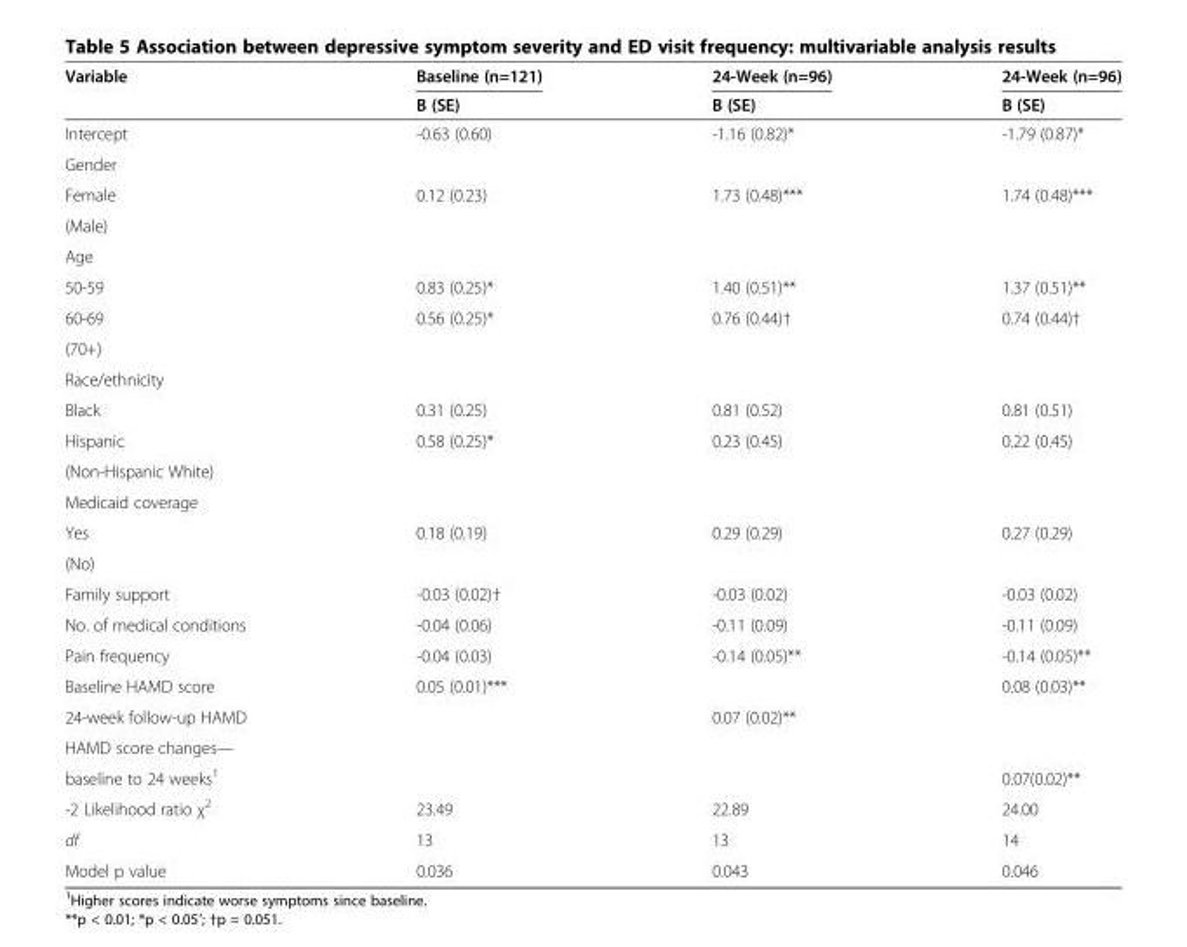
<table><thead><tr><td rowspan="2">Variable</td><td rowspan="2">Baseline (n=121) B (SE)</td><td rowspan="2">24-Week (n=96) B (SE)</td><td rowspan="2">24-Week (n=96) B (SE)</td></tr><tr></tr></thead><tbody><tr><td>Intercept</td><td>-0.63 (0.60)</td><td>-1.16 (0.82)*</td><td>-1.79 (0.87)*</td></tr><tr><td colspan="4">Gender</td></tr><tr><td>Female</td><td>0.12 (0.23)</td><td>1.73 (0.48)***</td><td>1.74 (0.48)***</td></tr><tr><td colspan="4">(Male)</td></tr><tr><td colspan="4">Age</td></tr><tr><td>50-59</td><td>0.83 (0.25)*</td><td>1.40 (0.51)**</td><td>1.37 (0.51)**</td></tr><tr><td>60-69</td><td>0.56 (0.25)*</td><td>0.76 (0.44)†</td><td>0.74 (0.44)†</td></tr><tr><td colspan="4">(70+)</td></tr><tr><td colspan="4">Race/ethnicity</td></tr><tr><td>Black</td><td>0.31 (0.25)</td><td>0.81 (0.52)</td><td>0.81 (0.51)</td></tr><tr><td>Hispanic</td><td>0.58 (0.25)*</td><td>0.23 (0.45)</td><td>0.22 (0.45)</td></tr><tr><td colspan="4">(Non-Hispanic White)</td></tr><tr><td colspan="4">Medicaid coverage</td></tr><tr><td>Yes</td><td>0.18 (0.19)</td><td>0.29 (0.29)</td><td>0.27 (0.29)</td></tr><tr><td colspan="4">(No)</td></tr><tr><td>Family support</td><td>-0.03 (0.02)†</td><td>-0.03 (0.02)</td><td>-0.03 (0.02)</td></tr><tr><td>No. of medical conditions</td><td>-0.04 (0.06)</td><td>-0.11 (0.09)</td><td>-0.11 (0.09)</td></tr><tr><td>Pain frequency</td><td>-0.04 (0.03)</td><td>-0.14 (0.05)**</td><td>-0.14 (0.05)**</td></tr><tr><td>Baseline HAMD score</td><td>0.05 (0.01)***</td><td></td><td>0.08 (0.03)**</td></tr><tr><td>24-week follow-up HAMD</td><td></td><td>0.07 (0.02)**</td><td></td></tr><tr><td colspan="4">HAMD score changes—</td></tr><tr><td>baseline to 24 weeks<sup>1</sup></td><td></td><td></td><td>0.07(0.02)**</td></tr><tr><td>-2 Likelihood ratio χ<sup>2</sup></td><td>23.49</td><td>22.89</td><td>24.00</td></tr><tr><td>df</td><td>13</td><td>13</td><td>14</td></tr><tr><td>Model p value</td><td>0.036</td><td>0.043</td><td>0.046</td></tr></tbody></table>